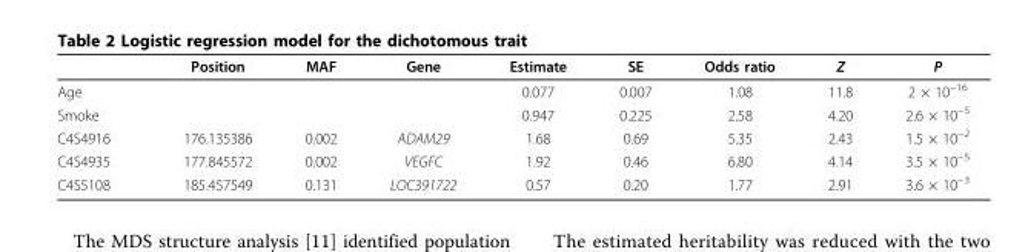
<table><thead><tr><td></td><td>Position</td><td>MAF</td><td>Gene</td><td>Estimate</td><td>SE</td><td>Odds ratio</td><td>Z</td><td>P</td></tr></thead><tbody><tr><td>Age</td><td></td><td></td><td></td><td>0.077</td><td>0.007</td><td>1.08</td><td>11.8</td><td>2 × 10<sup>−16</sup></td></tr><tr><td>Smoke</td><td></td><td></td><td></td><td>0.947</td><td>0.225</td><td>2.58</td><td>4.20</td><td>2.6 × 10<sup>−5</sup></td></tr><tr><td>C4S4916</td><td>176.135386</td><td>0.002</td><td>ADAM29</td><td>1.68</td><td>0.69</td><td>5.35</td><td>2.43</td><td>1.5 × 10<sup>−2</sup></td></tr><tr><td>C4S4935</td><td>177.845572</td><td>0.002</td><td>VEGFC</td><td>1.92</td><td>0.46</td><td>6.80</td><td>4.14</td><td>3.5 × 10<sup>−5</sup></td></tr><tr><td>C4S5108</td><td>185.457549</td><td>0.131</td><td>LOC391722</td><td>0.57</td><td>0.20</td><td>1.77</td><td>2.91</td><td>3.6 × 10<sup>−3</sup></td></tr></tbody></table>